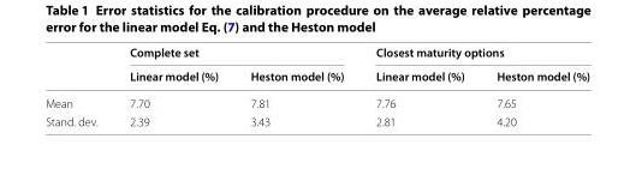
<table><thead><tr><td rowspan="2"></td><td colspan="2">Complete set</td><td colspan="2">Closest maturity options</td></tr><tr><td>Linear model (%)</td><td>Heston model (%)</td><td>Linear model (%)</td><td>Heston model (%)</td></tr></thead><tbody><tr><td>Mean</td><td>7.70</td><td>7.81</td><td>7.76</td><td>7.65</td></tr><tr><td>Stand. dev.</td><td>2.39</td><td>3.43</td><td>2.81</td><td>4.20</td></tr></tbody></table>